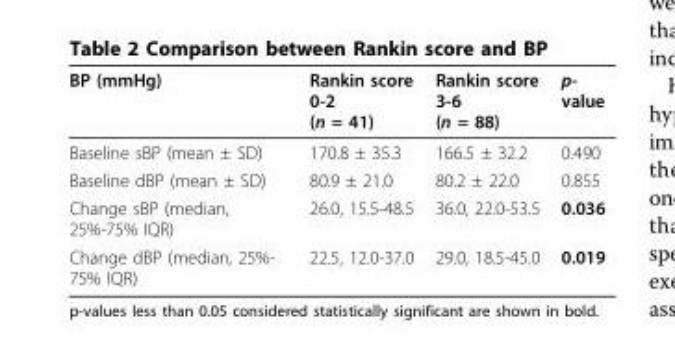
<table><thead><tr><td>BP (mmHg)</td><td>Rankin score 0-2 (n = 41)</td><td>Rankin score 3-6 (n = 88)</td><td>p- value</td></tr></thead><tbody><tr><td>Baseline sBP (mean ± SD)</td><td>170.8 ± 35.3</td><td>166.5 ± 32.2</td><td>0.490</td></tr><tr><td>Baseline dBP (mean ± SD)</td><td>80.9 ± 21.0</td><td>80.2 ± 22.0</td><td>0.855</td></tr><tr><td>Change sBP (median, 25%-75% IQR)</td><td>26.0, 15.5-48.5</td><td>36.0, 22.0-53.5</td><td>0.036</td></tr><tr><td>Change dBP (median, 25%- 75% IQR)</td><td>22.5, 12.0-37.0</td><td>29.0, 18.5-45.0</td><td>0.019</td></tr></tbody></table>